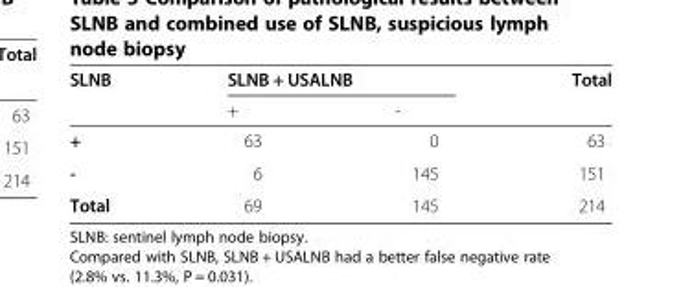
<table><thead><tr><td rowspan="2">SLNB</td><td colspan="2">SLNB + USALNB</td><td rowspan="2">Total</td></tr><tr><td>+</td><td>-</td></tr></thead><tbody><tr><td>+</td><td>63</td><td>0</td><td>63</td></tr><tr><td>-</td><td>6</td><td>145</td><td>151</td></tr><tr><td>Total</td><td>69</td><td>145</td><td>214</td></tr></tbody></table>